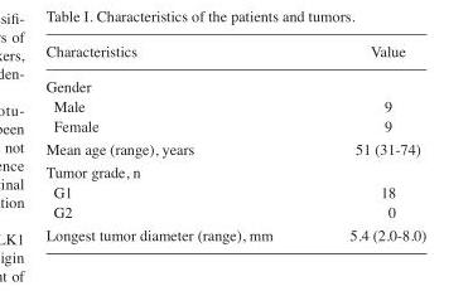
<table><thead><tr><td>Characteristics</td><td>Value</td></tr></thead><tbody><tr><td colspan="2">Gender</td></tr><tr><td>Male</td><td>9</td></tr><tr><td>Female</td><td>9</td></tr><tr><td>Mean age (range), years</td><td>51 (31-74)</td></tr><tr><td colspan="2">Tumor grade, n</td></tr><tr><td>G1</td><td>18</td></tr><tr><td>G2</td><td>0</td></tr><tr><td>Longest tumor diameter (range), mm</td><td>5.4 (2.0-8.0)</td></tr></tbody></table>